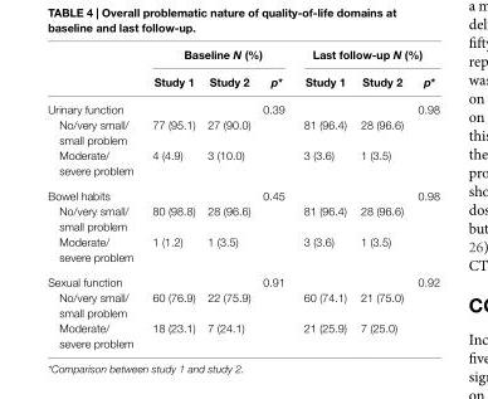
<table><thead><tr><td rowspan="2"></td><td colspan="3">Baseline N (%)</td><td colspan="3">last follow-up N (%)</td></tr><tr><td>Study 1</td><td>Study 2</td><td>p*</td><td>Study 1</td><td>Study 2</td><td>p*</td></tr></thead><tbody><tr><td>Urinary function</td><td></td><td></td><td>0.39</td><td></td><td></td><td>0.98</td></tr><tr><td>No/very small/ small problem</td><td>77 (95.1)</td><td>27 (90.0)</td><td></td><td>81 (96.4)</td><td>28 (96.6)</td><td></td></tr><tr><td>Moderate/ severe problem</td><td>4 (4.9)</td><td>3 (10.0)</td><td></td><td>3 (3.6)</td><td>1 (3.5)</td><td></td></tr><tr><td>Bowel habits</td><td></td><td></td><td>0.45</td><td></td><td></td><td>0.98</td></tr><tr><td>No/very small/ small problem</td><td>80 (98.8)</td><td>28 (96.6)</td><td></td><td>81 (96.4)</td><td>28 (96.6)</td><td></td></tr><tr><td>Moderate/ severe problem</td><td>1 (1.2)</td><td>1 (3.5)</td><td></td><td>3 (3.6)</td><td>1 (3.5)</td><td></td></tr><tr><td>Sexual function</td><td></td><td></td><td>0.91</td><td></td><td></td><td>0.92</td></tr><tr><td>No/very small/ small problem</td><td>60 (76.9)</td><td>22 (75.9)</td><td></td><td>60 (74.1)</td><td>21 (75.0)</td><td></td></tr><tr><td>Moderate/ severe problem</td><td>18 (23.1)</td><td>7 (24.1)</td><td></td><td>21 (25.9)</td><td>7 (25.0)</td><td></td></tr></tbody></table>